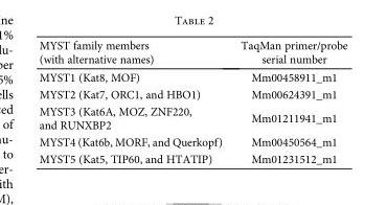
<table><thead><tr><td>MYST family members (with alternative names)</td><td>TaqMan primer/probe serial number</td></tr></thead><tbody><tr><td>MYST1 (Kat8, MOF)</td><td>Mm00458911_m1</td></tr><tr><td>MYST2 (Kat7, ORC1, and HBO1)</td><td>Mm00624391_m1</td></tr><tr><td>MYST3 (Kat6A, MOZ, ZNF220, and RUNXBP2</td><td>Mm01211941_m1</td></tr><tr><td>MYST4 (Kat6b, MORF, and Querkopf)</td><td>Mm00450564_m1</td></tr><tr><td>MYST5 (Kat5, TIP60, and HTATIP)</td><td>Mm01231512_m1</td></tr></tbody></table>